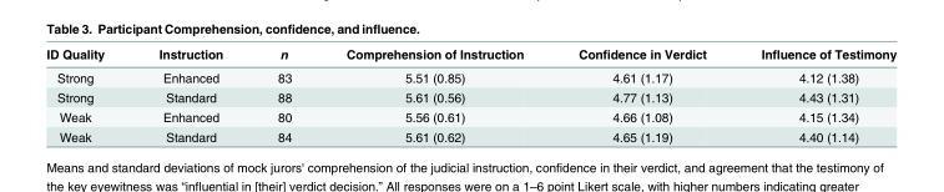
<table><thead><tr><td>ID Quality</td><td>Instruction</td><td>n</td><td>Comprehension of Instruction</td><td>Confidence in Verdict</td><td>Influence of Testimony</td></tr></thead><tbody><tr><td>Strong</td><td>Enhanced</td><td>83</td><td>5.51 (0.85)</td><td>4.61 (1.17)</td><td>4.12 (1.38)</td></tr><tr><td>Strong</td><td>Standard</td><td>88</td><td>5.61 (0.56)</td><td>4.77 (1.13)</td><td>4.43 (1.31)</td></tr><tr><td>Weak</td><td>Enhanced</td><td>80</td><td>5.56 (0.61)</td><td>4.66 (1.08)</td><td>4.15 (1.34)</td></tr><tr><td>Weak</td><td>Standard</td><td>84</td><td>5.61 (0.62)</td><td>4.65 (1.19)</td><td>4.40 (1.14)</td></tr></tbody></table>